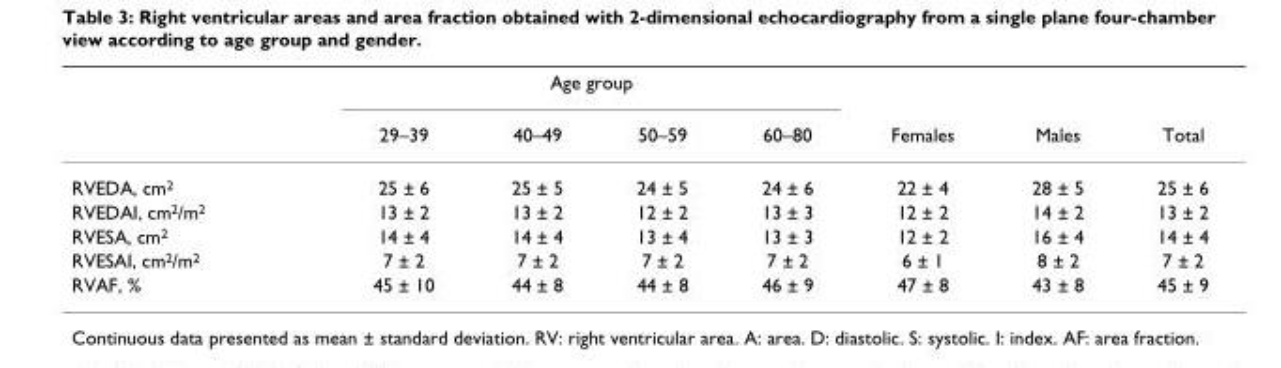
<table><thead><tr><td rowspan="2"></td><td colspan="4">Age group</td><td rowspan="2">Females</td><td rowspan="2">Males</td><td rowspan="2">Total</td></tr><tr><td>29–39</td><td>40–49</td><td>50–59</td><td>60–80</td></tr></thead><tbody><tr><td>RVEDA, cm<sup>2</sup></td><td>25 ± 6</td><td>25 ± 5</td><td>24 ± 5</td><td>24 ± 6</td><td>22 ± 4</td><td>28 ± 5</td><td>25 ± 6</td></tr><tr><td>RVEDAI, cm<sup>2</sup>/m<sup>2</sup></td><td>13 ± 2</td><td>13 ± 2</td><td>12 ± 2</td><td>13 ± 3</td><td>12 ± 2</td><td>14 ± 2</td><td>13 ± 2</td></tr><tr><td>RVESA, cm<sup>2</sup></td><td>14 ± 4</td><td>14 ± 4</td><td>13 ± 4</td><td>13 ± 3</td><td>12 ± 2</td><td>16 ± 4</td><td>14 ± 4</td></tr><tr><td>RVESAI, cm<sup>2</sup>/m<sup>2</sup></td><td>7 ± 2</td><td>7 ± 2</td><td>7 ± 2</td><td>7 ± 2</td><td>6 ± 1</td><td>8 ± 2</td><td>7 ± 2</td></tr><tr><td>RVAF, %</td><td>45 ± 10</td><td>44 ± 8</td><td>44 ± 8</td><td>46 ± 9</td><td>47 ± 8</td><td>43 ± 8</td><td>45 ± 9</td></tr></tbody></table>